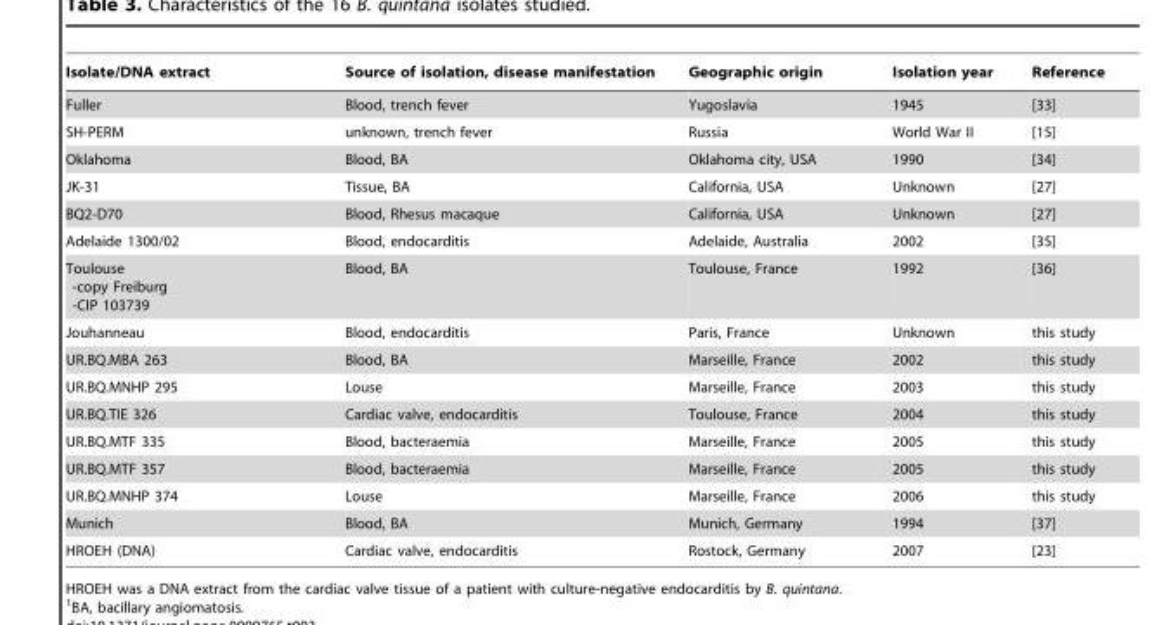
<table><thead><tr><td>Isolate/DNA extract</td><td>Source of isolation, disease manifestation</td><td>Geographic origin</td><td>Isolation year</td><td>Reference</td></tr></thead><tbody><tr><td>Fuller</td><td>Blood, trench fever</td><td>Yugoslavia</td><td>1945</td><td>[33]</td></tr><tr><td>SH-PERM</td><td>unknown, trench fever</td><td>Russia</td><td>World War II</td><td>[15]</td></tr><tr><td>Oklahoma</td><td>Blood, BA</td><td>Oklahoma city, USA</td><td>1990</td><td>[34]</td></tr><tr><td>JK-31</td><td>Tissue, BA</td><td>California, USA</td><td>Unknown</td><td>[27]</td></tr><tr><td>BQ2-D70</td><td>Blood, Rhesus macaque</td><td>California, USA</td><td>Unknown</td><td>[27]</td></tr><tr><td>Adelaide 1300/02</td><td>Blood, endocarditis</td><td>Adelaide, Australia</td><td>2002</td><td>[35]</td></tr><tr><td>Toulouse -copy Freiburg -CIP 103739</td><td>Blood, BA</td><td>Toulouse, France</td><td>1992</td><td>[36]</td></tr><tr><td>Jouhanneau</td><td>Blood, endocarditis</td><td>Paris, France</td><td>Unknown</td><td>this study</td></tr><tr><td>UR.BQ.MBA 263</td><td>Blood, BA</td><td>Marseille, France</td><td>2002</td><td>this study</td></tr><tr><td>UR.BQ.MNHP 295</td><td>Louse</td><td>Marseille, France</td><td>2003</td><td>this study</td></tr><tr><td>UR.BQ.TIE 326</td><td>Cardiac valve, endocarditis</td><td>Toulouse, France</td><td>2004</td><td>this study</td></tr><tr><td>UR.BQ.MTF 335</td><td>Blood, bacteraemia</td><td>Marseille, France</td><td>2005</td><td>this study</td></tr><tr><td>UR.BQ.MTF 357</td><td>Blood, bacteraemia</td><td>Marseille, France</td><td>2005</td><td>this study</td></tr><tr><td>UR.BQ.MNHP 374</td><td>Louse</td><td>Marseille, France</td><td>2006</td><td>this study</td></tr><tr><td>Munich</td><td>Blood, BA</td><td>Munich, Germany</td><td>1994</td><td>[37]</td></tr><tr><td>HROEH (DNA)</td><td>Cardiac valve, endocarditis</td><td>Rostock, Germany</td><td>2007</td><td>[23]</td></tr></tbody></table>